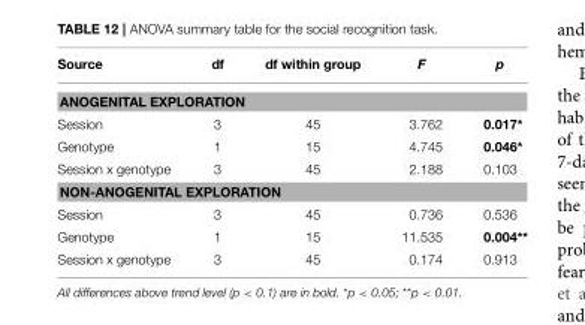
<table><thead><tr><td>Source</td><td>df</td><td>df within group</td><td>F</td><td>p</td></tr></thead><tbody><tr><td colspan="5">ANOGENITAL EXPLORATION</td></tr><tr><td>Session</td><td>3</td><td>45</td><td>3.762</td><td>0.017*</td></tr><tr><td>Genotype</td><td>1</td><td>15</td><td>4.745</td><td>0.046*</td></tr><tr><td>Session x genotype</td><td>3</td><td>45</td><td>2.188</td><td>0.103</td></tr><tr><td colspan="5">NON-ANOGENITAL EXPLORATION</td></tr><tr><td>Session</td><td>3</td><td>45</td><td>0.736</td><td>0.536</td></tr><tr><td>Genotype</td><td>1</td><td>15</td><td>11.535</td><td>0.004**</td></tr><tr><td>Session x genotype</td><td>3</td><td>45</td><td>0.174</td><td>0.913</td></tr></tbody></table>